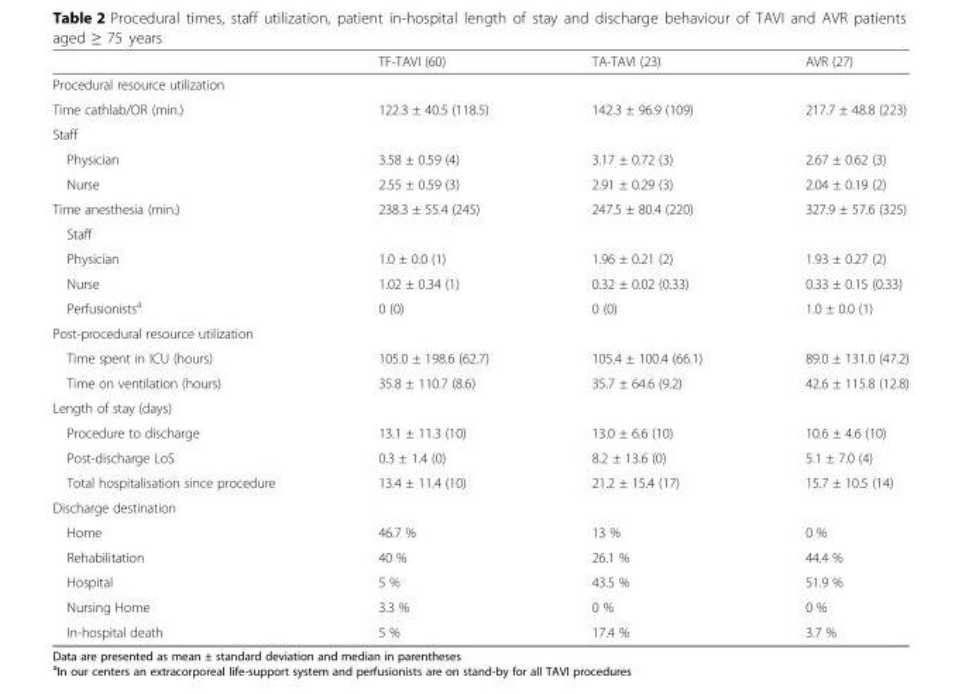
<table><thead><tr><td></td><td>TF-TAVI (60)</td><td>TA-TAVI (23)</td><td>AVR (27)</td></tr></thead><tbody><tr><td colspan="4">Procedural resource utilization</td></tr><tr><td>Time cathlab/OR (min.)</td><td>122.3 ± 40.5 (118.5)</td><td>142.3 ± 96.9 (109)</td><td>217.7 ± 48.8 (223)</td></tr><tr><td colspan="4">Staff</td></tr><tr><td>Physician</td><td>3.58 ± 0.59 (4)</td><td>3.17 ± 0.72 (3)</td><td>2.67 ± 0.62 (3)</td></tr><tr><td>Nurse</td><td>2.55 ± 0.59 (3)</td><td>2.91 ± 0.29 (3)</td><td>2.04 ± 0.19 (2)</td></tr><tr><td>Time anesthesia (min.)</td><td>238.3 ± 55.4 (245)</td><td>247.5 ± 80.4 (220)</td><td>327.9 ± 57.6 (325)</td></tr><tr><td colspan="4">Staff</td></tr><tr><td>Physician</td><td>1.0 ± 0.0 (1)</td><td>1.96 ± 0.21 (2)</td><td>1.93 ± 0.27 (2)</td></tr><tr><td>Nurse</td><td>1.02 ± 0.34 (1)</td><td>0.32 ± 0.02 (0.33)</td><td>0.33 ± 0.15 (0.33)</td></tr><tr><td>Perfusionists<sup>a</sup></td><td>0 (0)</td><td>0 (0)</td><td>1.0 ± 0.0 (1)</td></tr><tr><td colspan="4">Post-procedural resource utilization</td></tr><tr><td>Time spent in ICU (hours)</td><td>105.0 ± 198.6 (62.7)</td><td>105.4 ± 100.4 (66.1)</td><td>89.0 ± 131.0 (47.2)</td></tr><tr><td>Time on ventilation (hours)</td><td>35.8 ± 110.7 (8.6)</td><td>35.7 ± 64.6 (9.2)</td><td>42.6 ± 115.8 (12.8)</td></tr><tr><td colspan="4">Length of stay (days)</td></tr><tr><td>Procedure to discharge</td><td>13.1 ± 11.3 (10)</td><td>13.0 ± 6.6 (10)</td><td>10.6 ± 4.6 (10)</td></tr><tr><td>Post-discharge LoS</td><td>0.3 ± 1.4 (0)</td><td>8.2 ± 13.6 (0)</td><td>5.1 ± 7.0 (4)</td></tr><tr><td>Total hospitalisation since procedure</td><td>13.4 ± 11.4 (10)</td><td>21.2 ± 15.4 (17)</td><td>15.7 ± 10.5 (14)</td></tr><tr><td colspan="4">Discharge destination</td></tr><tr><td>Home</td><td>46.7 %</td><td>13 %</td><td>0 %</td></tr><tr><td>Rehabilitation</td><td>40 %</td><td>26.1 %</td><td>44.4 %</td></tr><tr><td>Hospital</td><td>5 %</td><td>43.5 %</td><td>51.9 %</td></tr><tr><td>Nursing Home</td><td>3.3 %</td><td>0 %</td><td>0 %</td></tr><tr><td>In-hospital death</td><td>5 %</td><td>17.4 %</td><td>3.7 %</td></tr></tbody></table>